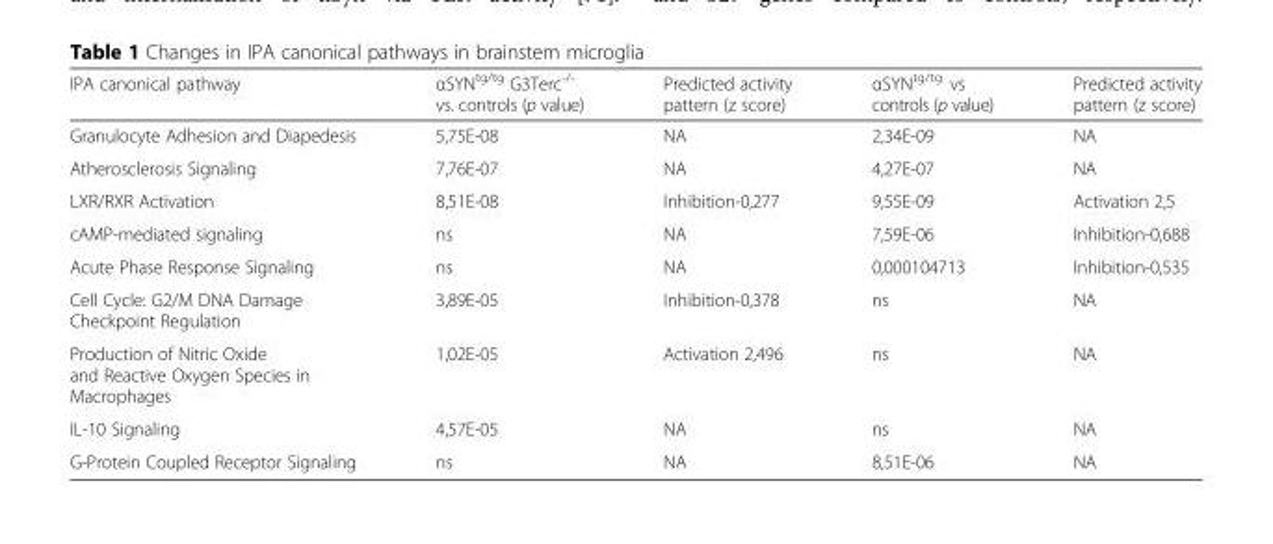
<table><thead><tr><td>IPA canonical pathway</td><td>αSYN<sup>tg/tg</sup> G3Terc<sup>-/-</sup> vs. controls (p value)</td><td>Predicted activity pattern (z score)</td><td>αSYN<sup>tg/tg</sup> vs controls (p value)</td><td>Predicted activity pattern (z score)</td></tr></thead><tbody><tr><td>Granulocyte Adhesion and Diapedesis</td><td>5,75E-08</td><td>NA</td><td>2,34E-09</td><td>NA</td></tr><tr><td>Atherosclerosis Signaling</td><td>7,76E-07</td><td>NA</td><td>4,27E-07</td><td>NA</td></tr><tr><td>LXR/RXR Activation</td><td>8,51E-08</td><td>Inhibition-0,277</td><td>9,55E-09</td><td>Activation 2,5</td></tr><tr><td>cAMP-mediated signaling</td><td>ns</td><td>NA</td><td>7,59E-06</td><td>Inhibition-0,688</td></tr><tr><td>Acute Phase Response Signaling</td><td>ns</td><td>NA</td><td>0,000104713</td><td>Inhibition-0,535</td></tr><tr><td>Cell Cycle: G2/M DNA Damage Checkpoint Regulation</td><td>3,89E-05</td><td>Inhibition-0,378</td><td>ns</td><td>NA</td></tr><tr><td>Production of Nitric Oxide and Reactive Oxygen Species in Macrophages</td><td>1,02E-05</td><td>Activation 2,496</td><td>ns</td><td>NA</td></tr><tr><td>IL-10 Signaling</td><td>4,57E-05</td><td>NA</td><td>ns</td><td>NA</td></tr><tr><td>G-Protein Coupled Receptor Signaling</td><td>ns</td><td>NA</td><td>8,51E-06</td><td>NA</td></tr></tbody></table>